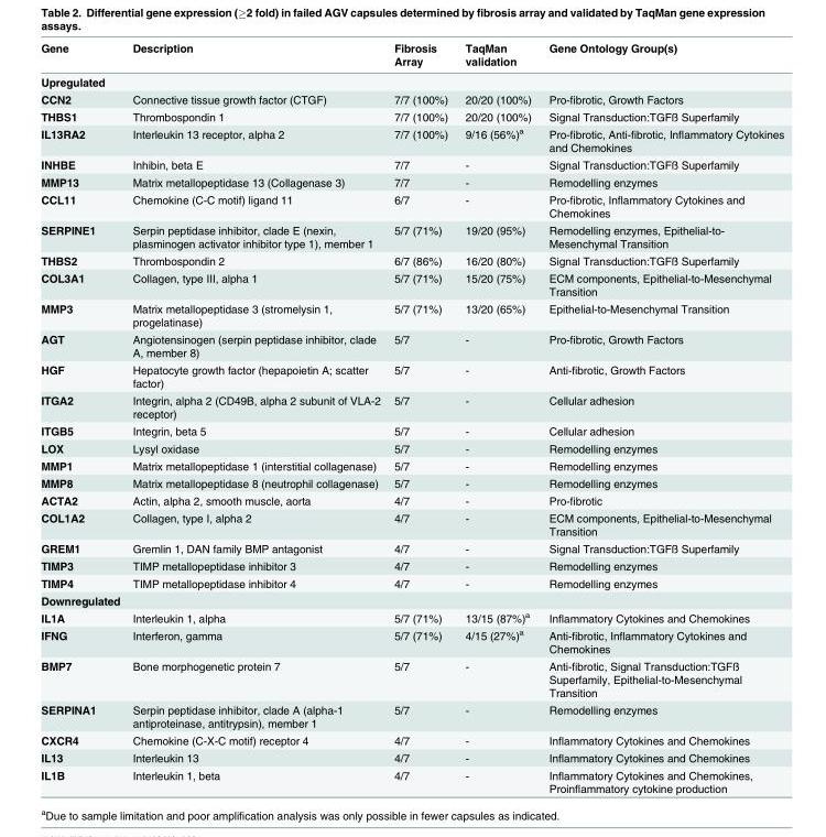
<table><thead><tr><td>Gene</td><td>Description</td><td>Fibrosis Array</td><td>TaqMan validation</td><td>Gene Ontology Group(s)</td></tr></thead><tbody><tr><td colspan="5">Upregulated</td></tr><tr><td>CCN2</td><td>Connective tissue growth factor (CTGF)</td><td>7/7 (100%)</td><td>20/20 (100%)</td><td>Pro-fibrotic, Growth Factors</td></tr><tr><td>THBS1</td><td>Thrombospondin 1</td><td>7/7 (100%)</td><td>20/20 (100%)</td><td>Signal Transduction:TGFß Superfamily</td></tr><tr><td>IL13RA2</td><td>Interleukin 13 receptor, alpha 2</td><td>7/7 (100%)</td><td>9/16 (56%)<sup>a</sup></td><td>Pro-fibrotic, Anti-fibrotic, Inflammatory Cytokines and Chemokines</td></tr><tr><td>INHBE</td><td>Inhibin, beta E</td><td>7/7</td><td>-</td><td>Signal Transduction:TGFß Superfamily</td></tr><tr><td>MMP13</td><td>Matrix metallopeptidase 13 (Collagenase 3)</td><td>7/7</td><td>-</td><td>Remodelling enzymes</td></tr><tr><td>CCL11</td><td>Chemokine (C-C motif) ligand 11</td><td>6/7</td><td>-</td><td>Pro-fibrotic, Inflammatory Cytokines and Chemokines</td></tr><tr><td>SERPINE1</td><td>Serpin peptidase inhibitor, clade E (nexin, plasminogen activator inhibitor type 1), member 1</td><td>5/7 (71%)</td><td>19/20 (95%)</td><td>Remodelling enzymes, Epithelial-to- Mesenchymal Transition</td></tr><tr><td>THBS2</td><td>Thrombospondin 2</td><td>6/7 (86%)</td><td>16/20 (80%)</td><td>Signal Transduction:TGFß Superfamily</td></tr><tr><td>COL3A1</td><td>Collagen, type III, alpha 1</td><td>5/7 (71%)</td><td>15/20 (75%)</td><td>ECM components, Epithelial-to-Mesenchymal Transition</td></tr><tr><td>MMP3</td><td>Matrix metallopeptidase 3 (stromelysin 1, progelatinase)</td><td>5/7 (71%)</td><td>13/20 (65%)</td><td>Epithelial-to-Mesenchymal Transition</td></tr><tr><td>AGT</td><td>Angiotensinogen (serpin peptidase inhibitor, clade A, member 8)</td><td>5/7</td><td>-</td><td>Pro-fibrotic, Growth Factors</td></tr><tr><td>HGF</td><td>Hepatocyte growth factor (hepapoietin A; scatter factor)</td><td>5/7</td><td>-</td><td>Anti-fibrotic, Growth Factors</td></tr><tr><td>ITGA2</td><td>Integrin, alpha 2 (CD49B, alpha 2 subunit of VLA-2 receptor)</td><td>5/7</td><td>-</td><td>Cellular adhesion</td></tr><tr><td>ITGB5</td><td>Integrin, beta 5</td><td>5/7</td><td>-</td><td>Cellular adhesion</td></tr><tr><td>LOX</td><td>Lysyl oxidase</td><td>5/7</td><td>-</td><td>Remodelling enzymes</td></tr><tr><td>MMP1</td><td>Matrix metallopeptidase 1 (interstitial collagenase)</td><td>5/7</td><td>-</td><td>Remodelling enzymes</td></tr><tr><td>MMP8</td><td>Matrix metallopeptidase 8 (neutrophil collagenase)</td><td>5/7</td><td>-</td><td>Remodelling enzymes</td></tr><tr><td>ACTA2</td><td>Actin, alpha 2, smooth muscle, aorta</td><td>4/7</td><td>-</td><td>Pro-fibrotic</td></tr><tr><td>COL1A2</td><td>Collagen, type I, alpha 2</td><td>4/7</td><td>-</td><td>ECM components, Epithelial-to-Mesenchymal Transition</td></tr><tr><td>GREM1</td><td>Gremlin 1, DAN family BMP antagonist</td><td>4/7</td><td>-</td><td>Signal Transduction:TGFß Superfamily</td></tr><tr><td>TIMP3</td><td>TIMP metallopeptidase inhibitor 3</td><td>4/7</td><td>-</td><td>Remodelling enzymes</td></tr><tr><td>TIMP4</td><td>TIMP metallopeptidase inhibitor 4</td><td>4/7</td><td>-</td><td>Remodelling enzymes</td></tr><tr><td colspan="5">Downregulated</td></tr><tr><td>IL1A</td><td>Interleukin 1, alpha</td><td>5/7 (71%)</td><td>13/15 (87%)<sup>a</sup></td><td>Inflammatory Cytokines and Chemokines</td></tr><tr><td>IFNG</td><td>Interferon, gamma</td><td>5/7 (71%)</td><td>4/15 (27%)<sup>a</sup></td><td>Anti-fibrotic, Inflammatory Cytokines and Chemokines</td></tr><tr><td>BMP7</td><td>Bone morphogenetic protein 7</td><td>5/7</td><td>-</td><td>Anti-fibrotic, Signal Transduction:TGFß Superfamily, Epithelial-to-Mesenchymal Transition</td></tr><tr><td>SERPINA1</td><td>Serpin peptidase inhibitor, clade A (alpha-1 antiproteinase, antitrypsin), member 1</td><td>5/7</td><td>-</td><td>Remodelling enzymes</td></tr><tr><td>CXCR4</td><td>Chemokine (C-X-C motif) receptor 4</td><td>4/7</td><td>-</td><td>Inflammatory Cytokines and Chemokines</td></tr><tr><td>IL13</td><td>Interleukin 13</td><td>4/7</td><td>-</td><td>Inflammatory Cytokines and Chemokines</td></tr><tr><td>IL1B</td><td>Interleukin 1, beta</td><td>4/7</td><td>-</td><td>Inflammatory Cytokines and Chemokines, Proinflammatory cytokine production</td></tr></tbody></table>